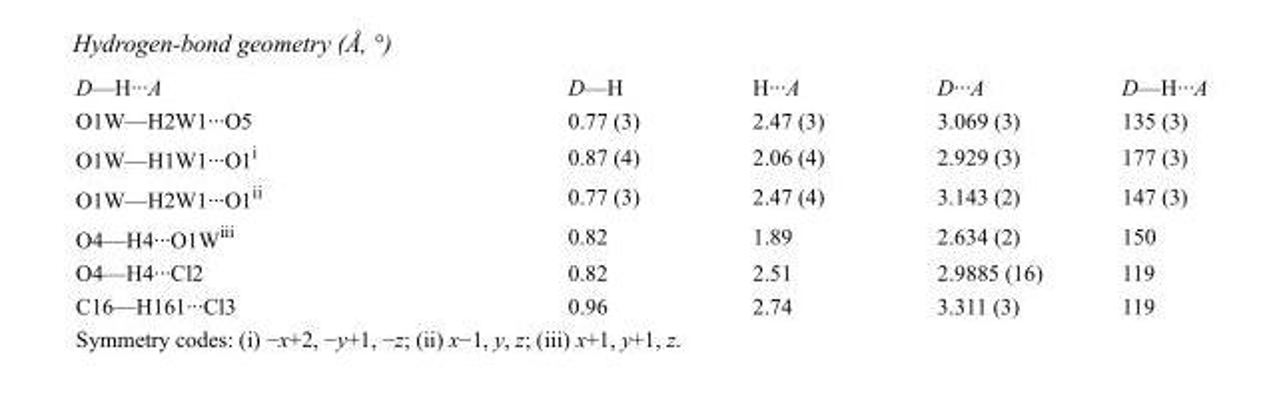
<table><tbody><tr><td>D—H···A</td><td>D—H</td><td>H···A</td><td>D···A</td><td>D—H···A</td></tr><tr><td>O1W—H2W1···O5</td><td>0.77 (3)</td><td>2.47 (3)</td><td>3.069 (3)</td><td>135 (3)</td></tr><tr><td>O1W—H1W1···O1<sup>i</sup></td><td>0.87 (4)</td><td>2.06 (4)</td><td>2.929 (3)</td><td>177 (3)</td></tr><tr><td>O1W—H2W1···O1<sup>ii</sup></td><td>0.77 (3)</td><td>2.47 (4)</td><td>3.143 (2)</td><td>147 (3)</td></tr><tr><td>O4—H4···O1W<sup>iii</sup></td><td>0.82</td><td>1.89</td><td>2.634 (2)</td><td>150</td></tr><tr><td>O4—H4···Cl2</td><td>0.82</td><td>2.51</td><td>2.9885 (16)</td><td>119</td></tr><tr><td>C16—H161···Cl3</td><td>0.96</td><td>2.74</td><td>3.311 (3)</td><td>119</td></tr></tbody></table>